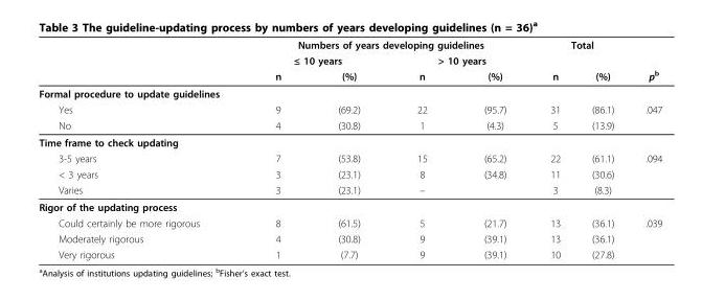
<table><thead><tr><td rowspan="3"></td><td colspan="4">Numbers of years developing guidelines</td><td colspan="2">Total</td><td rowspan="3">p<sup>b</sup></td></tr><tr><td colspan="2">≤ 10 years</td><td colspan="2">&gt; 10 years</td><td rowspan="2">n</td><td rowspan="2">(%)</td></tr><tr><td>n</td><td>(%)</td><td>n</td><td>(%)</td></tr></thead><tbody><tr><td colspan="8">Formal procedure to update guidelines</td></tr><tr><td>Yes</td><td>9</td><td>(69.2)</td><td>22</td><td>(95.7)</td><td>31</td><td>(86.1)</td><td>.047</td></tr><tr><td>No</td><td>4</td><td>(30.8)</td><td>1</td><td>(4.3)</td><td>5</td><td>(13.9)</td><td></td></tr><tr><td colspan="8">Time frame to check updating</td></tr><tr><td>3-5 years</td><td>7</td><td>(53.8)</td><td>15</td><td>(65.2)</td><td>22</td><td>(61.1)</td><td>.094</td></tr><tr><td>&lt; 3 years</td><td>3</td><td>(23.1)</td><td>8</td><td>(34.8)</td><td>11</td><td>(30.6)</td><td></td></tr><tr><td>Varies</td><td>3</td><td>(23.1)</td><td>–</td><td></td><td>3</td><td>(8.3)</td><td></td></tr><tr><td colspan="8">Rigor of the updating process</td></tr><tr><td>Could certainly be more rigorous</td><td>8</td><td>(61.5)</td><td>5</td><td>(21.7)</td><td>13</td><td>(36.1)</td><td>.039</td></tr><tr><td>Moderately rigorous</td><td>4</td><td>(30.8)</td><td>9</td><td>(39.1)</td><td>13</td><td>(36.1)</td><td></td></tr><tr><td>Very rigorous</td><td>1</td><td>(7.7)</td><td>9</td><td>(39.1)</td><td>10</td><td>(27.8)</td><td></td></tr></tbody></table>